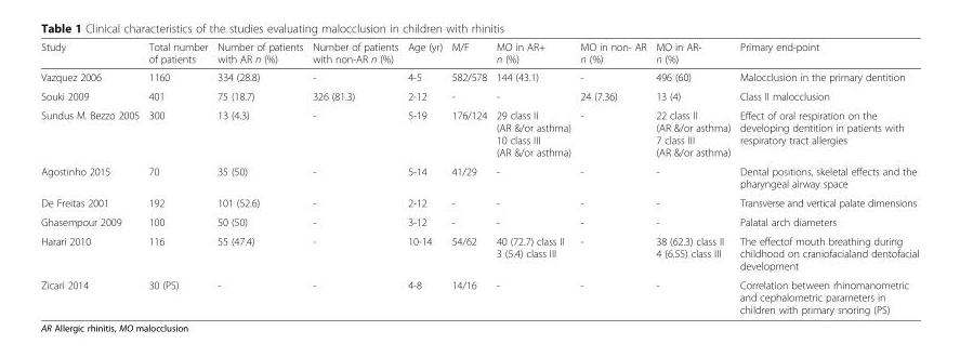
<table><thead><tr><td>Study</td><td>Total number of patients</td><td>Number of patients with AR n (%)</td><td>Number of patients with non-AR n (%)</td><td>Age (yr)</td><td>M/F</td><td>MO in AR+ n (%)</td><td>MO in non- AR n (%)</td><td>MO in AR- n (%)</td><td>Primary end-point</td></tr></thead><tbody><tr><td>Vazquez 2006</td><td>1160</td><td>334 (28.8)</td><td>-</td><td>4-5</td><td>582/578</td><td>144 (43.1)</td><td>-</td><td>496 (60)</td><td>Malocclusion in the primary dentition</td></tr><tr><td>Souki 2009</td><td>401</td><td>75 (18.7)</td><td>326 (81.3)</td><td>2-12</td><td>-</td><td>-</td><td>24 (7.36)</td><td>13 (4)</td><td>Class II malocclusion</td></tr><tr><td>Sundus M. Bezzo 2005</td><td>300</td><td>13 (4.3)</td><td>-</td><td>5-19</td><td>176/124</td><td>29 class II (AR &amp;/or asthma) 10 class III (AR &amp;/or asthma)</td><td>-</td><td>22 class II (AR &amp;/or asthma) 7 class III (AR &amp;/or asthma)</td><td>Effect of oral respiration on the developing dentition in patients with respiratory tract allergies</td></tr><tr><td>Agostinho 2015</td><td>70</td><td>35 (50)</td><td>-</td><td>5-14</td><td>41/29</td><td>-</td><td>-</td><td>-</td><td>Dental positions, skeletal effects and the pharyngeal airway space</td></tr><tr><td>De Freitas 2001</td><td>192</td><td>101 (52.6)</td><td>-</td><td>2-12</td><td>-</td><td>-</td><td>-</td><td>-</td><td>Transverse and vertical palate dimensions</td></tr><tr><td>Ghasempour 2009</td><td>100</td><td>50 (50)</td><td>-</td><td>3-12</td><td>-</td><td>-</td><td>-</td><td>-</td><td>Palatal arch diameters</td></tr><tr><td>Harari 2010</td><td>116</td><td>55 (47.4)</td><td>-</td><td>10-14</td><td>54/62</td><td>40 (72.7) class II 3 (5.4) class III</td><td>-</td><td>38 (62.3) class II 4 (6.55) class III</td><td>The effectof mouth breathing during childhood on craniofacialand dentofacial development</td></tr><tr><td>Zicari 2014</td><td>30 (PS)</td><td>-</td><td>-</td><td>4-8</td><td>14/16</td><td>-</td><td>-</td><td>-</td><td>Correlation between rhinomanometric and cephalometric parameters in children with primary snoring (PS)</td></tr></tbody></table>